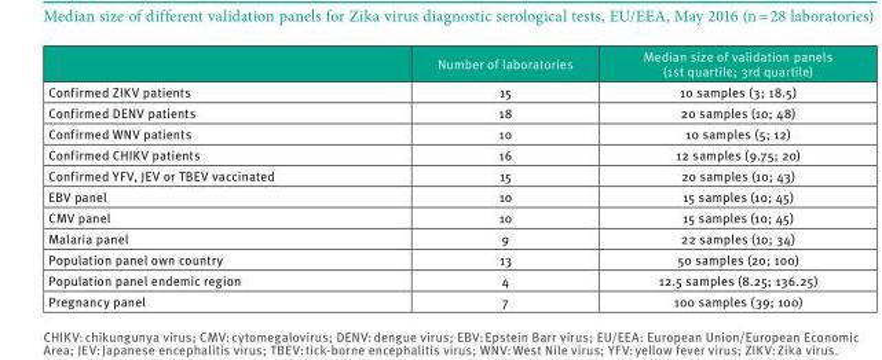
<table><thead><tr><td></td><td>Number of laboratories</td><td>Median size of validation panels (1st quartile; 3rd quartile)</td></tr></thead><tbody><tr><td>Confirmed ZIKV patients</td><td>15</td><td>10 samples (3; 18.5)</td></tr><tr><td>Confirmed DENV patients</td><td>18</td><td>20 samples (10; 48)</td></tr><tr><td>Confirmed WNV patients</td><td>10</td><td>10 samples (5; 12)</td></tr><tr><td>Confirmed CHIKV patients</td><td>16</td><td>12 samples (9.75; 20)</td></tr><tr><td>Confirmed YFV, JEV or TBEV vaccinated</td><td>15</td><td>20 samples (10; 43)</td></tr><tr><td>EBV panel</td><td>10</td><td>15 samples (10; 45)</td></tr><tr><td>CMV panel</td><td>10</td><td>15 samples (10; 45)</td></tr><tr><td>Malaria panel</td><td>9</td><td>22 samples (10; 34)</td></tr><tr><td>Population panel own country</td><td>13</td><td>50 samples (20; 100)</td></tr><tr><td>Population panel endemic region</td><td>4</td><td>12.5 samples (8.25; 136.25)</td></tr><tr><td>Pregnancy panel</td><td>7</td><td>100 samples (39; 100)</td></tr></tbody></table>